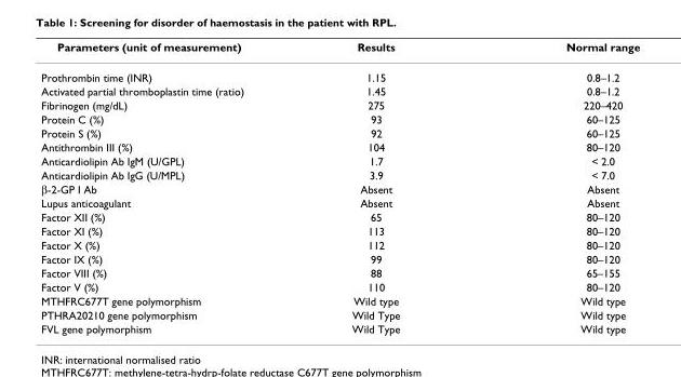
<table><thead><tr><td>Parameters (unit of measurement)</td><td>Results</td><td>Normal range</td></tr></thead><tbody><tr><td>Prothrombin time (INR)</td><td>1.15</td><td>0.8–1.2</td></tr><tr><td>Activated partial thromboplastin time (ratio)</td><td>1.45</td><td>0.8–1.2</td></tr><tr><td>Fibrinogen (mg/dL)</td><td>275</td><td>220–420</td></tr><tr><td>Protein C (%)</td><td>93</td><td>60–125</td></tr><tr><td>Protein S (%)</td><td>92</td><td>60–125</td></tr><tr><td>Antithrombin III (%)</td><td>104</td><td>80–120</td></tr><tr><td>Anticardiolipin Ab IgM (U/GPL)</td><td>1.7</td><td>&lt; 2.0</td></tr><tr><td>Anticardiolipin Ab IgG (U/MPL)</td><td>3.9</td><td>&lt; 7.0</td></tr><tr><td>β-2-GP I Ab</td><td>Absent</td><td>Absent</td></tr><tr><td>Lupus anticoagulant</td><td>Absent</td><td>Absent</td></tr><tr><td>Factor XII (%)</td><td>65</td><td>80–120</td></tr><tr><td>Factor XI (%)</td><td>113</td><td>80–120</td></tr><tr><td>Factor X (%)</td><td>112</td><td>80–120</td></tr><tr><td>Factor IX (%)</td><td>99</td><td>80–120</td></tr><tr><td>Factor VIII (%)</td><td>88</td><td>65–155</td></tr><tr><td>Factor V (%)</td><td>110</td><td>80–120</td></tr><tr><td>MTHFRC677T gene polymorphism</td><td>Wild type</td><td>Wild type</td></tr><tr><td>PTHRA20210 gene polymorphism</td><td>Wild Type</td><td>Wild type</td></tr><tr><td>FVL gene polymorphism</td><td>Wild Type</td><td>Wild type</td></tr></tbody></table>